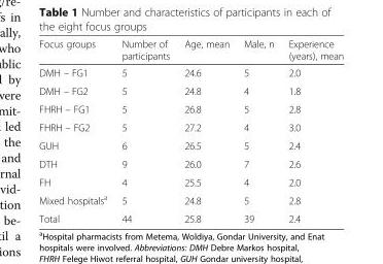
<table><thead><tr><td>Focus groups</td><td>Number of participants</td><td>Age, mean</td><td>Male, n</td><td>Experience (years), mean</td></tr></thead><tbody><tr><td>DMH – FG1</td><td>5</td><td>24.6</td><td>5</td><td>2.0</td></tr><tr><td>DMH – FG2</td><td>5</td><td>24.8</td><td>4</td><td>1.8</td></tr><tr><td>FHRH – FG1</td><td>5</td><td>26.8</td><td>5</td><td>2.8</td></tr><tr><td>FHRH – FG2</td><td>5</td><td>27.2</td><td>4</td><td>3.0</td></tr><tr><td>GUH</td><td>6</td><td>26.5</td><td>5</td><td>2.4</td></tr><tr><td>DTH</td><td>9</td><td>26.0</td><td>7</td><td>2.6</td></tr><tr><td>FH</td><td>4</td><td>25.5</td><td>4</td><td>2.0</td></tr><tr><td>Mixed hospitals<sup>a</sup></td><td>5</td><td>24.8</td><td>5</td><td>2.8</td></tr><tr><td>Total</td><td>44</td><td>25.8</td><td>39</td><td>2.4</td></tr></tbody></table>